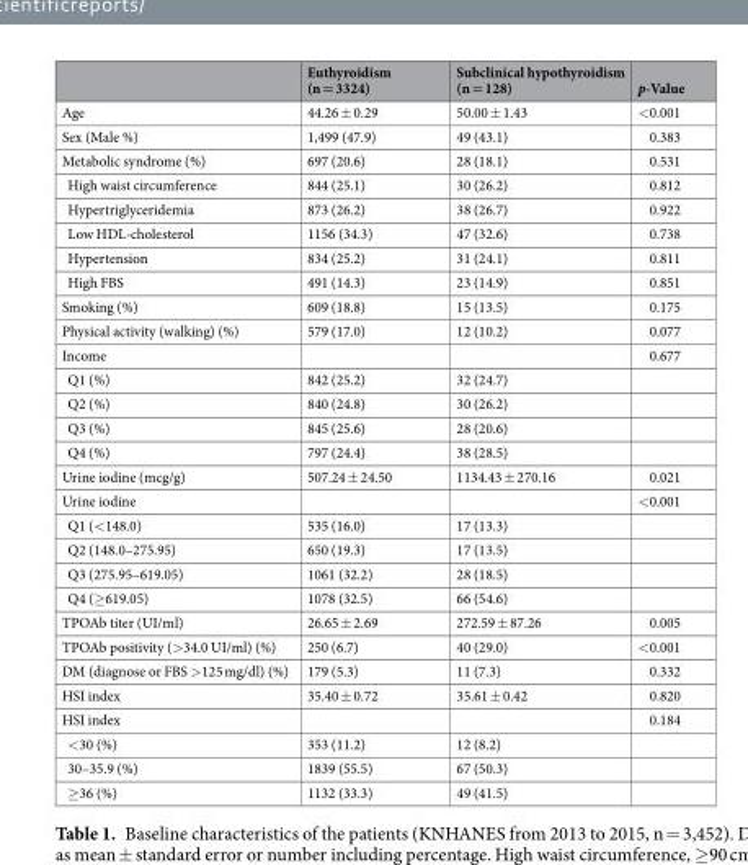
<table><thead><tr><td></td><td>Euthyroidism (n = 3324)</td><td>Subclinical hypothyroidism (n = 128)</td><td>p-Value</td></tr></thead><tbody><tr><td>Age</td><td>44.26 ± 0.29</td><td>50.00 ± 1.43</td><td>&lt;0.001</td></tr><tr><td>Sex (Male %)</td><td>1,499 (47.9)</td><td>49 (43.1)</td><td>0.383</td></tr><tr><td>Metabolic syndrome (%)</td><td>697 (20.6)</td><td>28 (18.1)</td><td>0.531</td></tr><tr><td>High waist circumference</td><td>844 (25.1)</td><td>30 (26.2)</td><td>0.812</td></tr><tr><td>Hypertriglyceridemia</td><td>873 (26.2)</td><td>38 (26.7)</td><td>0.922</td></tr><tr><td>Low HDL-cholesterol</td><td>1156 (34.3)</td><td>47 (32.6)</td><td>0.738</td></tr><tr><td>Hypertension</td><td>834 (25.2)</td><td>31 (24.1)</td><td>0.811</td></tr><tr><td>High FBS</td><td>491 (14.3)</td><td>23 (14.9)</td><td>0.851</td></tr><tr><td>Smoking (%)</td><td>609 (18.8)</td><td>15 (13.5)</td><td>0.175</td></tr><tr><td>Physical activity (walking) (%)</td><td>579 (17.0)</td><td>12 (10.2)</td><td>0.077</td></tr><tr><td>Income</td><td></td><td></td><td>0.677</td></tr><tr><td>Q1 (%)</td><td>842 (25.2)</td><td>32 (24.7)</td><td></td></tr><tr><td>Q2 (%)</td><td>840 (24.8)</td><td>30 (26.2)</td><td></td></tr><tr><td>Q3 (%)</td><td>845 (25.6)</td><td>28 (20.6)</td><td></td></tr><tr><td>Q4 (%)</td><td>797 (24.4)</td><td>38 (28.5)</td><td></td></tr><tr><td>Urine iodine (mcg/g)</td><td>507.24 ± 24.50</td><td>1134.43 ± 270.16</td><td>0.021</td></tr><tr><td>Urine iodine</td><td></td><td></td><td>&lt;0.001</td></tr><tr><td>Q1 (&lt;148.0)</td><td>535 (16.0)</td><td>17 (13.3)</td><td></td></tr><tr><td>Q2 (148.0–275.95)</td><td>650 (19.3)</td><td>17 (13.5)</td><td></td></tr><tr><td>Q3 (275.95–619.05)</td><td>1061 (32.2)</td><td>28 (18.5)</td><td></td></tr><tr><td>Q4 (≥619.05)</td><td>1078 (32.5)</td><td>66 (54.6)</td><td></td></tr><tr><td>TPOAb titer (UI/ml)</td><td>26.65 ± 2.69</td><td>272.59 ± 87.26</td><td>0.005</td></tr><tr><td>TPOAb positivity (&gt;34.0 UI/ml) (%)</td><td>250 (6.7)</td><td>40 (29.0)</td><td>&lt;0.001</td></tr><tr><td>DM (diagnose or FBS &gt;125 mg/dl) (%)</td><td>179 (5.3)</td><td>11 (7.3)</td><td>0.332</td></tr><tr><td>HSI index</td><td>35.40 ± 0.72</td><td>35.61 ± 0.42</td><td>0.820</td></tr><tr><td>HSI index</td><td></td><td></td><td>0.184</td></tr><tr><td>&lt;30 (%)</td><td>353 (11.2)</td><td>12 (8.2)</td><td></td></tr><tr><td>30–35.9 (%)</td><td>1839 (55.5)</td><td>67 (50.3)</td><td></td></tr><tr><td>≥36 (%)</td><td>1132 (33.3)</td><td>49 (41.5)</td><td></td></tr></tbody></table>